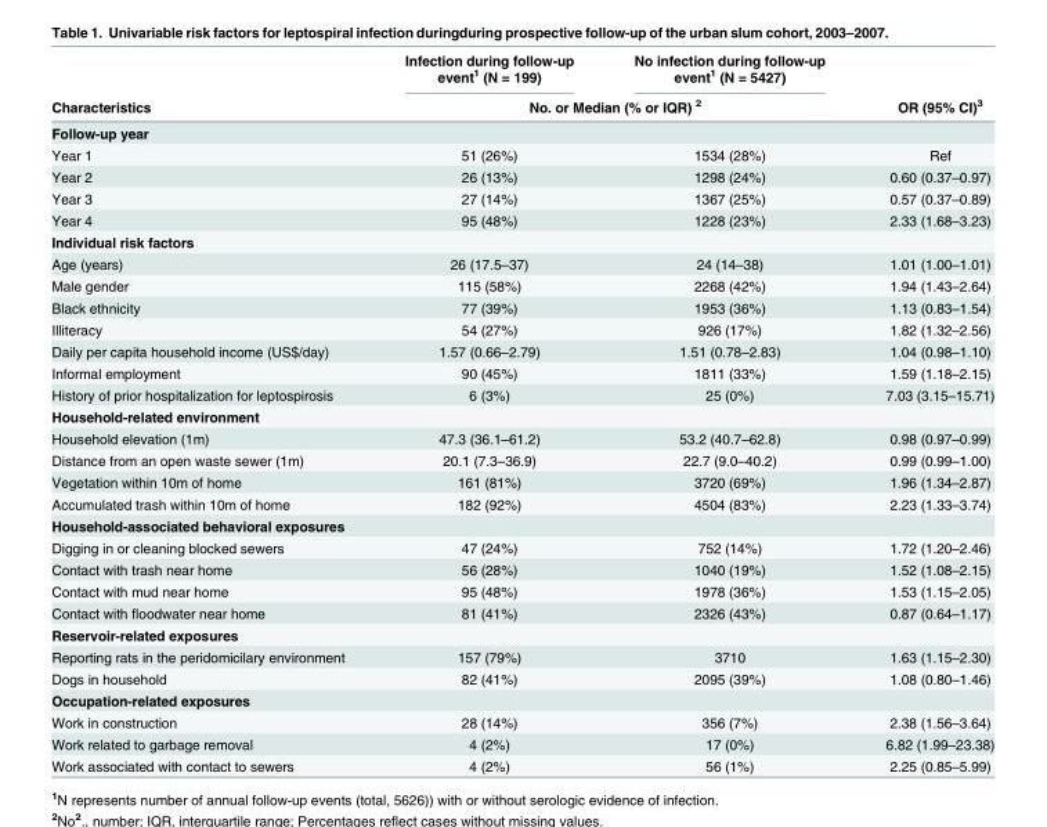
<table><thead><tr><td rowspan="2">Characteristics</td><td>Infection during follow-up event<sup>1</sup> (N = 199)</td><td>No infection during follow-up event<sup>1</sup> (N = 5427)</td><td rowspan="2">OR (95% CI)<sup>3</sup></td></tr><tr><td colspan="2">No. or Median (% or IQR) <sup>2</sup></td></tr></thead><tbody><tr><td colspan="4">Follow-up year</td></tr><tr><td>Year 1</td><td>51 (26%)</td><td>1534 (28%)</td><td>Ref</td></tr><tr><td>Year 2</td><td>26 (13%)</td><td>1298 (24%)</td><td>0.60 (0.37–0.97)</td></tr><tr><td>Year 3</td><td>27 (14%)</td><td>1367 (25%)</td><td>0.57 (0.37–0.89)</td></tr><tr><td>Year 4</td><td>95 (48%)</td><td>1228 (23%)</td><td>2.33 (1.68–3.23)</td></tr><tr><td colspan="4">Individual risk factors</td></tr><tr><td>Age (years)</td><td>26 (17.5–37)</td><td>24 (14–38)</td><td>1.01 (1.00–1.01)</td></tr><tr><td>Male gender</td><td>115 (58%)</td><td>2268 (42%)</td><td>1.94 (1.43–2.64)</td></tr><tr><td>Black ethnicity</td><td>77 (39%)</td><td>1953 (36%)</td><td>1.13 (0.83–1.54)</td></tr><tr><td>Illiteracy</td><td>54 (27%)</td><td>926 (17%)</td><td>1.82 (1.32–2.56)</td></tr><tr><td>Daily per capita household income (US$/day)</td><td>1.57 (0.66–2.79)</td><td>1.51 (0.78–2.83)</td><td>1.04 (0.98–1.10)</td></tr><tr><td>Informal employment</td><td>90 (45%)</td><td>1811 (33%)</td><td>1.59 (1.18–2.15)</td></tr><tr><td>History of prior hospitalization for leptospirosis</td><td>6 (3%)</td><td>25 (0%)</td><td>7.03 (3.15–15.71)</td></tr><tr><td colspan="4">Household-related environment</td></tr><tr><td>Household elevation (1m)</td><td>47.3 (36.1–61.2)</td><td>53.2 (40.7–62.8)</td><td>0.98 (0.97–0.99)</td></tr><tr><td>Distance from an open waste sewer (1m)</td><td>20.1 (7.3–36.9)</td><td>22.7 (9.0–40.2)</td><td>0.99 (0.99–1.00)</td></tr><tr><td>Vegetation within 10m of home</td><td>161 (81%)</td><td>3720 (69%)</td><td>1.96 (1.34–2.87)</td></tr><tr><td>Accumulated trash within 10m of home</td><td>182 (92%)</td><td>4504 (83%)</td><td>2.23 (1.33–3.74)</td></tr><tr><td colspan="4">Household-associated behavioral exposures</td></tr><tr><td>Digging in or cleaning blocked sewers</td><td>47 (24%)</td><td>752 (14%)</td><td>1.72 (1.20–2.46)</td></tr><tr><td>Contact with trash near home</td><td>56 (28%)</td><td>1040 (19%)</td><td>1.52 (1.08–2.15)</td></tr><tr><td>Contact with mud near home</td><td>95 (48%)</td><td>1978 (36%)</td><td>1.53 (1.15–2.05)</td></tr><tr><td>Contact with floodwater near home</td><td>81 (41%)</td><td>2326 (43%)</td><td>0.87 (0.64–1.17)</td></tr><tr><td colspan="4">Reservoir-related exposures</td></tr><tr><td>Reporting rats in the peridomicilary environment</td><td>157 (79%)</td><td>3710</td><td>1.63 (1.15–2.30)</td></tr><tr><td>Dogs in household</td><td>82 (41%)</td><td>2095 (39%)</td><td>1.08 (0.80–1.46)</td></tr><tr><td colspan="4">Occupation-related exposures</td></tr><tr><td>Work in construction</td><td>28 (14%)</td><td>356 (7%)</td><td>2.38 (1.56–3.64)</td></tr><tr><td>Work related to garbage removal</td><td>4 (2%)</td><td>17 (0%)</td><td>6.82 (1.99–23.38)</td></tr><tr><td>Work associated with contact to sewers</td><td>4 (2%)</td><td>56 (1%)</td><td>2.25 (0.85–5.99)</td></tr></tbody></table>